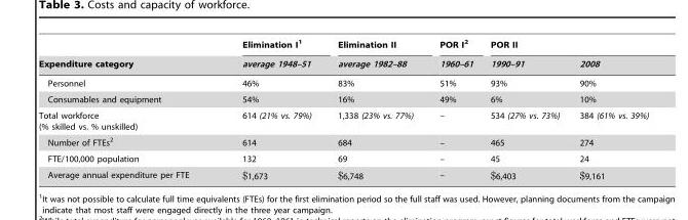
<table><thead><tr><td rowspan="2">Expenditure category</td><td rowspan="2">Elimination I<sup>1</sup> average 1948–51</td><td rowspan="2">Elimination II average 1982–88</td><td rowspan="2">POR I<sup>2</sup> 1960–61</td><td colspan="2">POR II</td></tr><tr><td>1990–91</td><td>2008</td></tr></thead><tbody><tr><td>Personnel</td><td>46%</td><td>83%</td><td>51%</td><td>93%</td><td>90%</td></tr><tr><td>Consumables and equipment</td><td>54%</td><td>16%</td><td>49%</td><td>6%</td><td>10%</td></tr><tr><td>Total workforce (% skilled vs. % unskilled)</td><td>614 (21% vs. 79%)</td><td>1,338 (23% vs. 77%)</td><td>–</td><td>534 (27% vs. 73%)</td><td>384 (61% vs. 39%)</td></tr><tr><td>Number of FTEs<sup>2</sup></td><td>614</td><td>684</td><td>–</td><td>465</td><td>274</td></tr><tr><td>FTE/100,000 population</td><td>132</td><td>69</td><td>–</td><td>45</td><td>24</td></tr><tr><td>Average annual expenditure per FTE</td><td>$1,673</td><td>$6,748</td><td>–</td><td>$6,403</td><td>$9,161</td></tr></tbody></table>